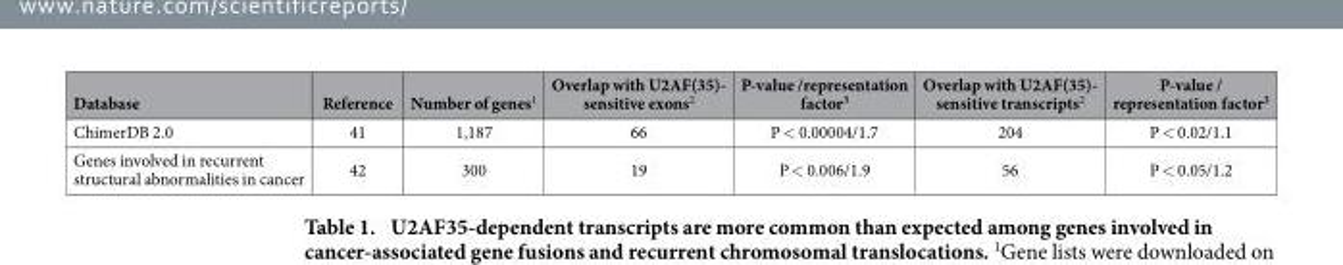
<table><thead><tr><td>Database</td><td>Reference</td><td>Number of genes<sup>1</sup></td><td>Overlap with U2AF(35)- sensitive exons<sup>2</sup></td><td>P-value /representation factor<sup>3</sup></td><td>Overlap with U2AF(35)- sensitive transcripts<sup>2</sup></td><td>P-value / representation factor<sup>3</sup></td></tr></thead><tbody><tr><td>ChimerDB 2.0</td><td>41</td><td>1,187</td><td>66</td><td>P &lt; 0.00004/1.7</td><td>204</td><td>P &lt; 0.02/1.1</td></tr><tr><td>Genes involved in recurrent structural abnormalities in cancer</td><td>42</td><td>300</td><td>19</td><td>P &lt; 0.006/1.9</td><td>56</td><td>P &lt; 0.05/1.2</td></tr></tbody></table>